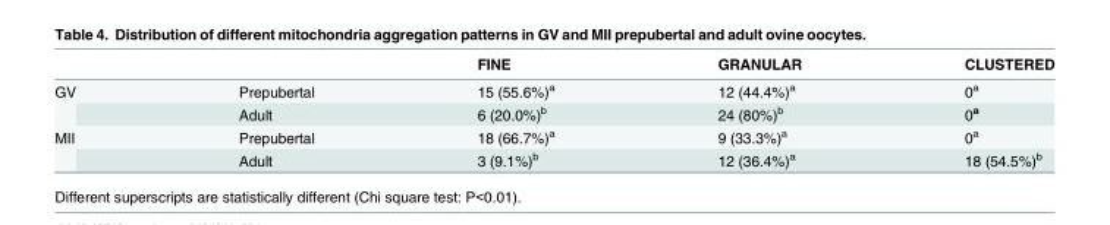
<table><thead><tr><td></td><td></td><td>FINE</td><td>GRANULAR</td><td>CLUSTERED</td></tr></thead><tbody><tr><td rowspan="2">GV</td><td>Prepubertal</td><td>15 (55.6%)<sup>a</sup></td><td>12 (44.4%)<sup>a</sup></td><td>0<sup>a</sup></td></tr><tr><td>Adult</td><td>6 (20.0%)<sup>b</sup></td><td>24 (80%)<sup>b</sup></td><td>0<sup>a</sup></td></tr><tr><td rowspan="2">MII</td><td>Prepubertal</td><td>18 (66.7%)<sup>a</sup></td><td>9 (33.3%)<sup>a</sup></td><td>0<sup>a</sup></td></tr><tr><td>Adult</td><td>3 (9.1%)<sup>b</sup></td><td>12 (36.4%)<sup>a</sup></td><td>18 (54.5%)<sup>b</sup></td></tr></tbody></table>